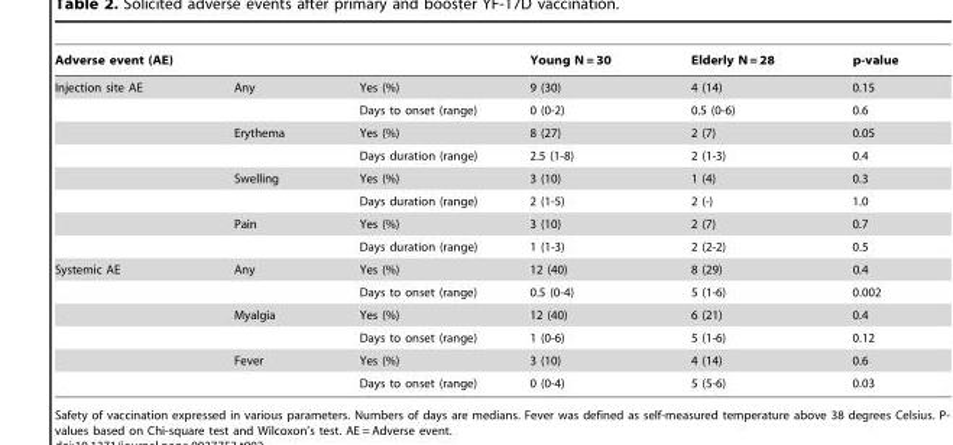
<table><thead><tr><td colspan="3">Adverse event (AE)</td><td rowspan="2">Young N = 30 9 (30)</td><td rowspan="2">Elderly N = 28 4 (14)</td><td rowspan="2">p-value 0.15</td></tr><tr><td>Injection site AE</td><td>Any</td><td>Yes (%)</td></tr></thead><tbody><tr><td></td><td></td><td>Days to onset (range)</td><td>0 (0-2)</td><td>0.5 (0-6)</td><td>0.6</td></tr><tr><td></td><td>Erythema</td><td>Yes (%)</td><td>8 (27)</td><td>2 (7)</td><td>0.05</td></tr><tr><td></td><td></td><td>Days duration (range)</td><td>2.5 (1-8)</td><td>2 (1-3)</td><td>0.4</td></tr><tr><td></td><td>Swelling</td><td>Yes (%)</td><td>3 (10)</td><td>1 (4)</td><td>0.3</td></tr><tr><td></td><td></td><td>Days duration (range)</td><td>2 (1-5)</td><td>2 (-)</td><td>1.0</td></tr><tr><td></td><td>Pain</td><td>Yes (%)</td><td>3 (10)</td><td>2 (7)</td><td>0.7</td></tr><tr><td></td><td></td><td>Days duration (range)</td><td>1 (1-3)</td><td>2 (2-2)</td><td>0.5</td></tr><tr><td rowspan="6">Systemic AE</td><td>Any</td><td>Yes (%)</td><td>12 (40)</td><td>8 (29)</td><td>0.4</td></tr><tr><td></td><td>Days to onset (range)</td><td>0.5 (0-4)</td><td>5 (1-6)</td><td>0.002</td></tr><tr><td>Myalgia</td><td>Yes (%)</td><td>12 (40)</td><td>6 (21)</td><td>0.4</td></tr><tr><td></td><td>Days to onset (range)</td><td>1 (0-6)</td><td>5 (1-6)</td><td>0.12</td></tr><tr><td>Fever</td><td>Yes (%)</td><td>3 (10)</td><td>4 (14)</td><td>0.6</td></tr><tr><td></td><td>Days to onset (range)</td><td>0 (0-4)</td><td>5 (5-6)</td><td>0.03</td></tr></tbody></table>